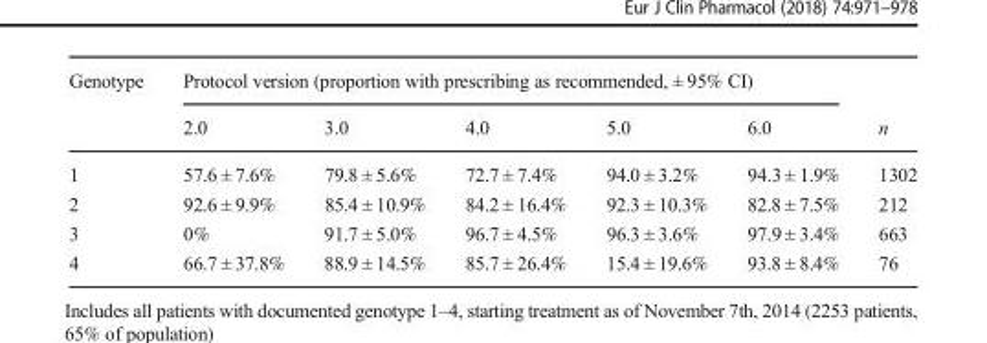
<table><thead><tr><td rowspan="2">Genotype</td><td colspan="5">Protocol version (proportion with prescribing as recommended, ± 95% CI)</td><td rowspan="2">n</td></tr><tr><td>2.0</td><td>3.0</td><td>4.0</td><td>5.0</td><td>6.0</td></tr></thead><tbody><tr><td>1</td><td>57.6 ± 7.6%</td><td>79.8 ± 5.6%</td><td>72.7 ± 7.4%</td><td>94.0 ± 3.2%</td><td>94.3 ± 1.9%</td><td>1302</td></tr><tr><td>2</td><td>92.6 ± 9.9%</td><td>85.4 ± 10.9%</td><td>84.2 ± 16.4%</td><td>92.3 ± 10.3%</td><td>82.8 ± 7.5%</td><td>212</td></tr><tr><td>3</td><td>0%</td><td>91.7 ± 5.0%</td><td>96.7 ± 4.5%</td><td>96.3 ± 3.6%</td><td>97.9 ± 3.4%</td><td>663</td></tr><tr><td>4</td><td>66.7 ± 37.8%</td><td>88.9 ± 14.5%</td><td>85.7 ± 26.4%</td><td>15.4 ± 19.6%</td><td>93.8 ± 8.4%</td><td>76</td></tr></tbody></table>